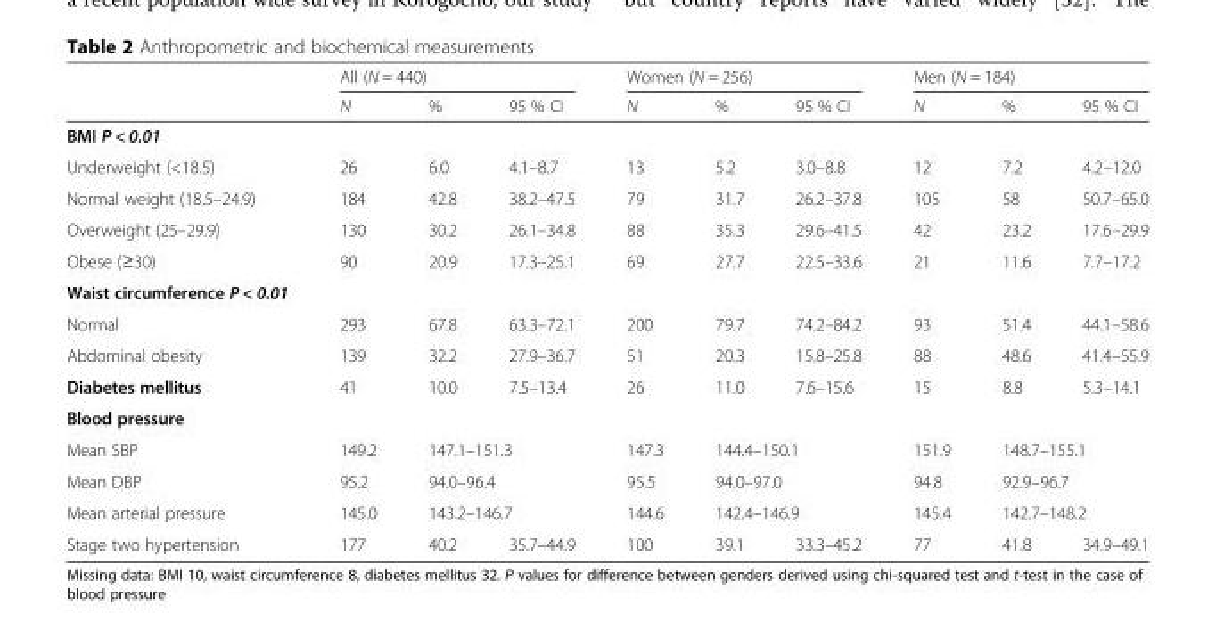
<table><thead><tr><td rowspan="2"></td><td colspan="3">All (N = 440)</td><td colspan="3">Women (N = 256)</td><td colspan="3">Men (N = 184)</td></tr><tr><td>N</td><td>%</td><td>95 % CI</td><td>N</td><td>%</td><td>95 % CI</td><td>N</td><td>%</td><td>95 % CI</td></tr></thead><tbody><tr><td colspan="10">BMI P &lt; 0.01</td></tr><tr><td>Underweight (&lt;18.5)</td><td>26</td><td>6.0</td><td>4.1–8.7</td><td>13</td><td>5.2</td><td>3.0–8.8</td><td>12</td><td>7.2</td><td>4.2–12.0</td></tr><tr><td>Normal weight (18.5–24.9)</td><td>184</td><td>42.8</td><td>38.2–47.5</td><td>79</td><td>31.7</td><td>26.2–37.8</td><td>105</td><td>58</td><td>50.7–65.0</td></tr><tr><td>Overweight (25–29.9)</td><td>130</td><td>30.2</td><td>26.1–34.8</td><td>88</td><td>35.3</td><td>29.6–41.5</td><td>42</td><td>23.2</td><td>17.6–29.9</td></tr><tr><td>Obese (≥30)</td><td>90</td><td>20.9</td><td>17.3–25.1</td><td>69</td><td>27.7</td><td>22.5–33.6</td><td>21</td><td>11.6</td><td>7.7–17.2</td></tr><tr><td colspan="10">Waist circumference P &lt; 0.01</td></tr><tr><td>Normal</td><td>293</td><td>67.8</td><td>63.3–72.1</td><td>200</td><td>79.7</td><td>74.2–84.2</td><td>93</td><td>51.4</td><td>44.1–58.6</td></tr><tr><td>Abdominal obesity</td><td>139</td><td>32.2</td><td>27.9–36.7</td><td>51</td><td>20.3</td><td>15.8–25.8</td><td>88</td><td>48.6</td><td>41.4–55.9</td></tr><tr><td>Diabetes mellitus</td><td>41</td><td>10.0</td><td>7.5–13.4</td><td>26</td><td>11.0</td><td>7.6–15.6</td><td>15</td><td>8.8</td><td>5.3–14.1</td></tr><tr><td colspan="10">Blood pressure</td></tr><tr><td>Mean SBP</td><td>149.2</td><td colspan="2">147.1–151.3</td><td>147.3</td><td colspan="2">144.4–150.1</td><td>151.9</td><td colspan="2">148.7–155.1</td></tr><tr><td>Mean DBP</td><td>95.2</td><td colspan="2">94.0–96.4</td><td>95.5</td><td colspan="2">94.0–97.0</td><td>94.8</td><td colspan="2">92.9–96.7</td></tr><tr><td>Mean arterial pressure</td><td>145.0</td><td colspan="2">143.2–146.7</td><td>144.6</td><td colspan="2">142.4–146.9</td><td>145.4</td><td colspan="2">142.7–148.2</td></tr><tr><td>Stage two hypertension</td><td>177</td><td>40.2</td><td>35.7–44.9</td><td>100</td><td>39.1</td><td>33.3–45.2</td><td>77</td><td>41.8</td><td>34.9–49.1</td></tr></tbody></table>